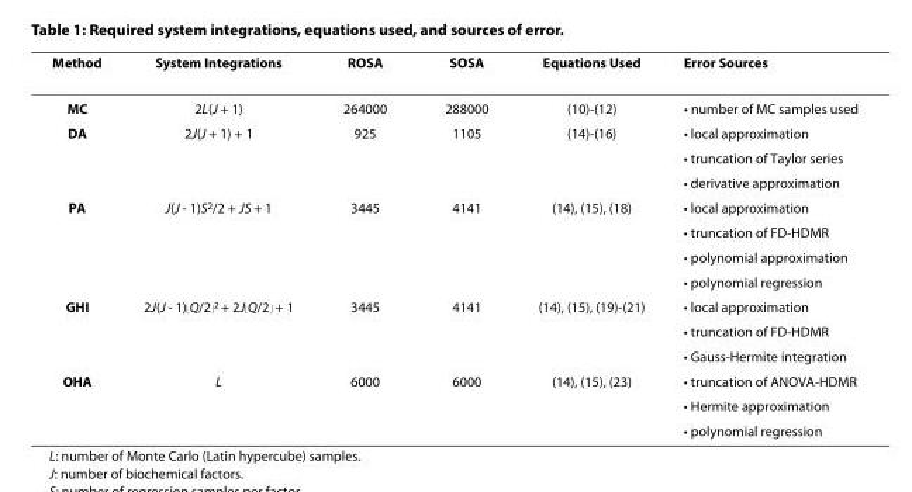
<table><thead><tr><td>Method</td><td>System Integrations</td><td>ROSA</td><td>SOSA</td><td>Equations Used</td><td>Error Sources</td></tr></thead><tbody><tr><td>MC</td><td>2L(J + 1)</td><td>264000</td><td>288000</td><td>(10)-(12)</td><td>• number of MC samples used</td></tr><tr><td rowspan="3">DA</td><td>2J(J + 1) + 1</td><td>925</td><td>1105</td><td>(14)-(16)</td><td>• local approximation</td></tr><tr><td></td><td></td><td></td><td></td><td>• truncation of Taylor series</td></tr><tr><td></td><td></td><td></td><td></td><td>• derivative approximation</td></tr><tr><td rowspan="4">PA</td><td>J(J - 1)S<sup>2</sup>/2 + JS + 1</td><td>3445</td><td>4141</td><td>(14), (15), (18)</td><td>• local approximation</td></tr><tr><td></td><td></td><td></td><td></td><td>• truncation of FD-HDMR</td></tr><tr><td></td><td></td><td></td><td></td><td>• polynomial approximation</td></tr><tr><td></td><td></td><td></td><td></td><td>• polynomial regression</td></tr><tr><td rowspan="3">GHI</td><td>2J(J - 1)⌊Q/2⌋<sup>2</sup> + 2J⌊Q/2⌋ + 1</td><td>3445</td><td>4141</td><td>(14), (15), (19)-(21)</td><td>• local approximation</td></tr><tr><td></td><td></td><td></td><td></td><td>• truncation of FD-HDMR</td></tr><tr><td></td><td></td><td></td><td></td><td>• Gauss-Hermite integration</td></tr><tr><td rowspan="3">OHA</td><td>L</td><td>6000</td><td>6000</td><td>(14), (15), (23)</td><td>• truncation of ANOVA-HDMR</td></tr><tr><td></td><td></td><td></td><td></td><td>• Hermite approximation</td></tr><tr><td></td><td></td><td></td><td></td><td>• polynomial regression</td></tr></tbody></table>